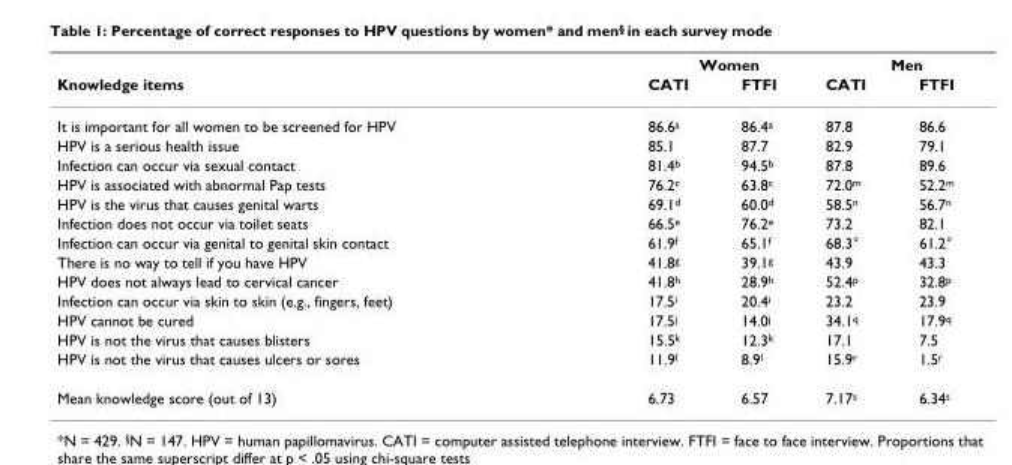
<table><thead><tr><td rowspan="2">Knowledge items</td><td colspan="2">Women</td><td colspan="2">Men</td></tr><tr><td>CATI</td><td>FTFI</td><td>CATI</td><td>FTFI</td></tr></thead><tbody><tr><td>It is important for all women to be screened for HPV</td><td>86.6<sup>a</sup></td><td>86.4<sup>a</sup></td><td>87.8</td><td>86.6</td></tr><tr><td>HPV is a serious health issue</td><td>85.1</td><td>87.7</td><td>82.9</td><td>79.1</td></tr><tr><td>Infection can occur via sexual contact</td><td>81.4<sup>b</sup></td><td>94.5<sup>b</sup></td><td>87.8</td><td>89.6</td></tr><tr><td>HPV is associated with abnormal Pap tests</td><td>76.2<sup>c</sup></td><td>63.8<sup>c</sup></td><td>72.0<sup>m</sup></td><td>52.2<sup>m</sup></td></tr><tr><td>HPV is the virus that causes genital warts</td><td>69.1<sup>d</sup></td><td>60.0<sup>d</sup></td><td>58.5<sup>n</sup></td><td>56.7<sup>n</sup></td></tr><tr><td>Infection does not occur via toilet seats</td><td>66.5<sup>e</sup></td><td>76.2<sup>e</sup></td><td>73.2</td><td>82.1</td></tr><tr><td>Infection can occur via genital to genital skin contact</td><td>61.9<sup>f</sup></td><td>65.1<sup>f</sup></td><td>68.3°</td><td>61.2°</td></tr><tr><td>There is no way to tell if you have HPV</td><td>41.8<sup>g</sup></td><td>39.1<sup>g</sup></td><td>43.9</td><td>43.3</td></tr><tr><td>HPV does not always lead to cervical cancer</td><td>41.8<sup>h</sup></td><td>28.9<sup>h</sup></td><td>52.4<sup>p</sup></td><td>32.8<sup>p</sup></td></tr><tr><td>Infection can occur via skin to skin (e.g., fingers, feet)</td><td>17.5<sup>i</sup></td><td>20.4<sup>i</sup></td><td>23.2</td><td>23.9</td></tr><tr><td>HPV cannot be cured</td><td>17.5<sup>j</sup></td><td>14.0<sup>j</sup></td><td>34.1<sup>q</sup></td><td>17.9<sup>q</sup></td></tr><tr><td>HPV is not the virus that causes blisters</td><td>15.5<sup>k</sup></td><td>12.3<sup>k</sup></td><td>17.1</td><td>7.5</td></tr><tr><td>HPV is not the virus that causes ulcers or sores</td><td>11.9<sup>l</sup></td><td>8.9<sup>l</sup></td><td>15.9<sup>r</sup></td><td>1.5<sup>r</sup></td></tr><tr><td>Mean knowledge score (out of 13)</td><td>6.73</td><td>6.57</td><td>7.17<sup>s</sup></td><td>6.34<sup>s</sup></td></tr></tbody></table>